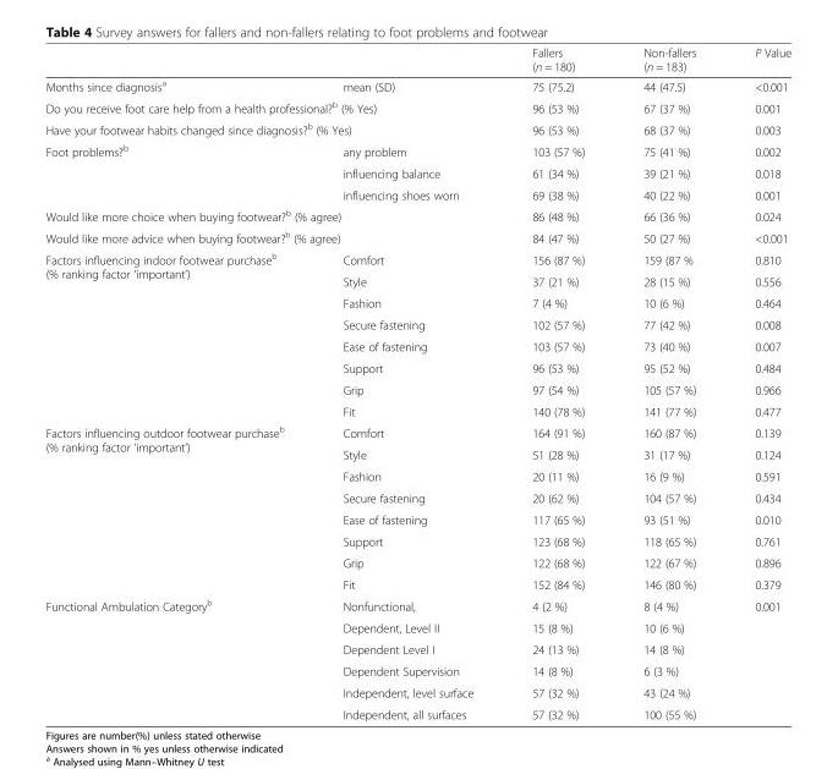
<table><thead><tr><td></td><td></td><td>Fallers (n = 180)</td><td>Non-fallers (n = 183)</td><td>P Value</td></tr></thead><tbody><tr><td>Months since diagnosis<sup>a</sup></td><td>mean (SD)</td><td>75 (75.2)</td><td>44 (47.5)</td><td>&lt;0.001</td></tr><tr><td colspan="2">Do you receive foot care help from a health professional?<sup>b</sup> (% Yes)</td><td>96 (53 %)</td><td>67 (37 %)</td><td>0.001</td></tr><tr><td colspan="2">Have your footwear habits changed since diagnosis?<sup>b</sup> (% Yes)</td><td>96 (53 %)</td><td>68 (37 %)</td><td>0.003</td></tr><tr><td rowspan="3">Foot problems?<sup>b</sup></td><td>any problem</td><td>103 (57 %)</td><td>75 (41 %)</td><td>0.002</td></tr><tr><td>influencing balance</td><td>61 (34 %)</td><td>39 (21 %)</td><td>0.018</td></tr><tr><td>influencing shoes worn</td><td>69 (38 %)</td><td>40 (22 %)</td><td>0.001</td></tr><tr><td colspan="2">Would like more choice when buying footwear?<sup>b</sup> (% agree)</td><td>86 (48 %)</td><td>66 (36 %)</td><td>0.024</td></tr><tr><td colspan="2">Would like more advice when buying footwear?<sup>b</sup> (% agree)</td><td>84 (47 %)</td><td>50 (27 %)</td><td>&lt;0.001</td></tr><tr><td rowspan="8">Factors influencing indoor footwear purchase<sup>b</sup> (% ranking factor ‘important’)</td><td>Comfort</td><td>156 (87 %)</td><td>159 (87 %</td><td>0.810</td></tr><tr><td>Style</td><td>37 (21 %)</td><td>28 (15 %)</td><td>0.556</td></tr><tr><td>Fashion</td><td>7 (4 %)</td><td>10 (6 %)</td><td>0.464</td></tr><tr><td>Secure fastening</td><td>102 (57 %)</td><td>77 (42 %)</td><td>0.008</td></tr><tr><td>Ease of fastening</td><td>103 (57 %)</td><td>73 (40 %)</td><td>0.007</td></tr><tr><td>Support</td><td>96 (53 %)</td><td>95 (52 %)</td><td>0.484</td></tr><tr><td>Grip</td><td>97 (54 %)</td><td>105 (57 %)</td><td>0.966</td></tr><tr><td>Fit</td><td>140 (78 %)</td><td>141 (77 %)</td><td>0.477</td></tr><tr><td rowspan="8">Factors influencing outdoor footwear purchase<sup>b</sup> (% ranking factor ‘important’)</td><td>Comfort</td><td>164 (91 %)</td><td>160 (87 %)</td><td>0.139</td></tr><tr><td>Style</td><td>51 (28 %)</td><td>31 (17 %)</td><td>0.124</td></tr><tr><td>Fashion</td><td>20 (11 %)</td><td>16 (9 %)</td><td>0.591</td></tr><tr><td>Secure fastening</td><td>20 (62 %)</td><td>104 (57 %)</td><td>0.434</td></tr><tr><td>Ease of fastening</td><td>117 (65 %)</td><td>93 (51 %)</td><td>0.010</td></tr><tr><td>Support</td><td>123 (68 %)</td><td>118 (65 %)</td><td>0.761</td></tr><tr><td>Grip</td><td>122 (68 %)</td><td>122 (67 %)</td><td>0.896</td></tr><tr><td>Fit</td><td>152 (84 %)</td><td>146 (80 %)</td><td>0.379</td></tr><tr><td rowspan="6">Functional Ambulation Category<sup>b</sup></td><td>Nonfunctional,</td><td>4 (2 %)</td><td>8 (4 %)</td><td rowspan="6">0.001</td></tr><tr><td>Dependent, Level II</td><td>15 (8 %)</td><td>10 (6 %)</td></tr><tr><td>Dependent Level I</td><td>24 (13 %)</td><td>14 (8 %)</td></tr><tr><td>Dependent Supervision</td><td>14 (8 %)</td><td>6 (3 %)</td></tr><tr><td>Independent, level surface</td><td>57 (32 %)</td><td>43 (24 %)</td></tr><tr><td>Independent, all surfaces</td><td>57 (32 %)</td><td>100 (55 %)</td></tr></tbody></table>